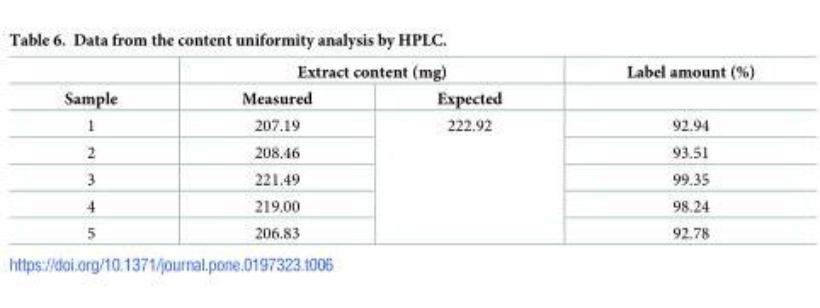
<table><thead><tr><td rowspan="2">Sample</td><td colspan="2">Extract content (mg)</td><td rowspan="2">Label amount (%)</td></tr><tr><td>Measured</td><td>Expected</td></tr></thead><tbody><tr><td>1</td><td>207.19</td><td rowspan="5">222.92</td><td>92.94</td></tr><tr><td>2</td><td>208.46</td><td>93.51</td></tr><tr><td>3</td><td>221.49</td><td>99.35</td></tr><tr><td>4</td><td>219.00</td><td>98.24</td></tr><tr><td>5</td><td>206.83</td><td>92.78</td></tr></tbody></table>